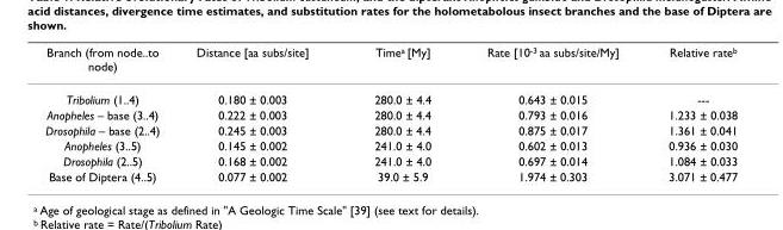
<table><thead><tr><td>Branch (from node..to node)</td><td>Distance [aa subs/site]</td><td>Time<sup>a</sup> [My]</td><td>Rate [10<sup>-3</sup> aa subs/site/My]</td><td>Relative rate<sup>b</sup></td></tr></thead><tbody><tr><td>Tribolium (1..4)</td><td>0.180 ± 0.003</td><td>280.0 ± 4.4</td><td>0.643 ± 0.015</td><td>---</td></tr><tr><td>Anopheles – base (3..4)</td><td>0.222 ± 0.003</td><td>280.0 ± 4.4</td><td>0.793 ± 0.016</td><td>1.233 ± 0.038</td></tr><tr><td>Drosophila – base (2..4)</td><td>0.245 ± 0.003</td><td>280.0 ± 4.4</td><td>0.875 ± 0.017</td><td>1.361 ± 0.041</td></tr><tr><td>Anopheles (3..5)</td><td>0.145 ± 0.002</td><td>241.0 ± 4.0</td><td>0.602 ± 0.013</td><td>0.936 ± 0.030</td></tr><tr><td>Drosophila (2..5)</td><td>0.168 ± 0.002</td><td>241.0 ± 4.0</td><td>0.697 ± 0.014</td><td>1.084 ± 0.033</td></tr><tr><td>Base of Diptera (4..5)</td><td>0.077 ± 0.002</td><td>39.0 ± 5.9</td><td>1.974 ± 0.303</td><td>3.071 ± 0.477</td></tr></tbody></table>